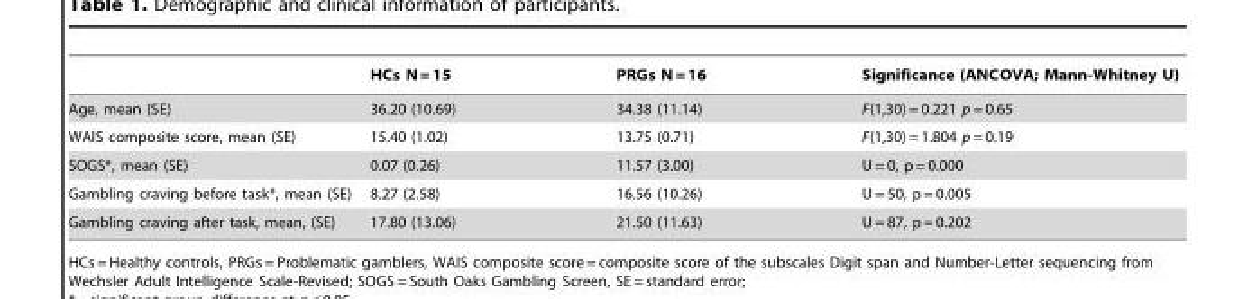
<table><thead><tr><td></td><td>HCs N = 15</td><td>PRGs N = 16</td><td>Significance (ANCOVA; Mann-Whitney U)</td></tr></thead><tbody><tr><td>Age, mean (SE)</td><td>36.20 (10.69)</td><td>34.38 (11.14)</td><td>F(1,30) = 0.221 p = 0.65</td></tr><tr><td>WAIS composite score, mean (SE)</td><td>15.40 (1.02)</td><td>13.75 (0.71)</td><td>F(1,30) = 1.804 p = 0.19</td></tr><tr><td>SOGS*, mean (SE)</td><td>0.07 (0.26)</td><td>11.57 (3.00)</td><td>U = 0, p = 0.000</td></tr><tr><td>Gambling craving before task*, mean (SE)</td><td>8.27 (2.58)</td><td>16.56 (10.26)</td><td>U = 50, p = 0.005</td></tr><tr><td>Gambling craving after task, mean, (SE)</td><td>17.80 (13.06)</td><td>21.50 (11.63)</td><td>U = 87, p = 0.202</td></tr></tbody></table>